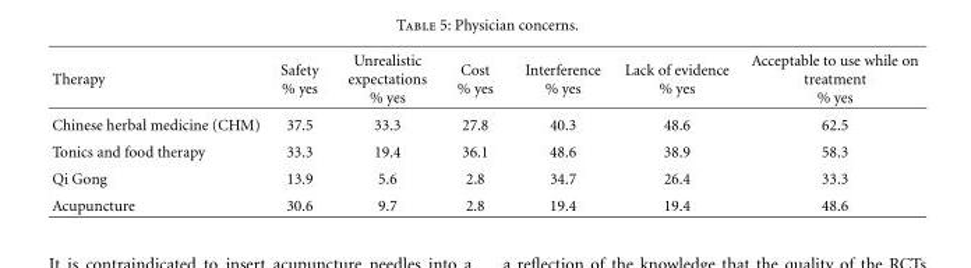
<table><thead><tr><td>Therapy</td><td>Safety % yes</td><td>Unrealistic expectations % yes</td><td>Cost % yes</td><td>Interference % yes</td><td>Lack of evidence % yes</td><td>Acceptable to use while on treatment % yes</td></tr></thead><tbody><tr><td>Chinese herbal medicine (CHM)</td><td>37.5</td><td>33.3</td><td>27.8</td><td>40.3</td><td>48.6</td><td>62.5</td></tr><tr><td>Tonics and food therapy</td><td>33.3</td><td>19.4</td><td>36.1</td><td>48.6</td><td>38.9</td><td>58.3</td></tr><tr><td>Qi Gong</td><td>13.9</td><td>5.6</td><td>2.8</td><td>34.7</td><td>26.4</td><td>33.3</td></tr><tr><td>Acupuncture</td><td>30.6</td><td>9.7</td><td>2.8</td><td>19.4</td><td>19.4</td><td>48.6</td></tr></tbody></table>